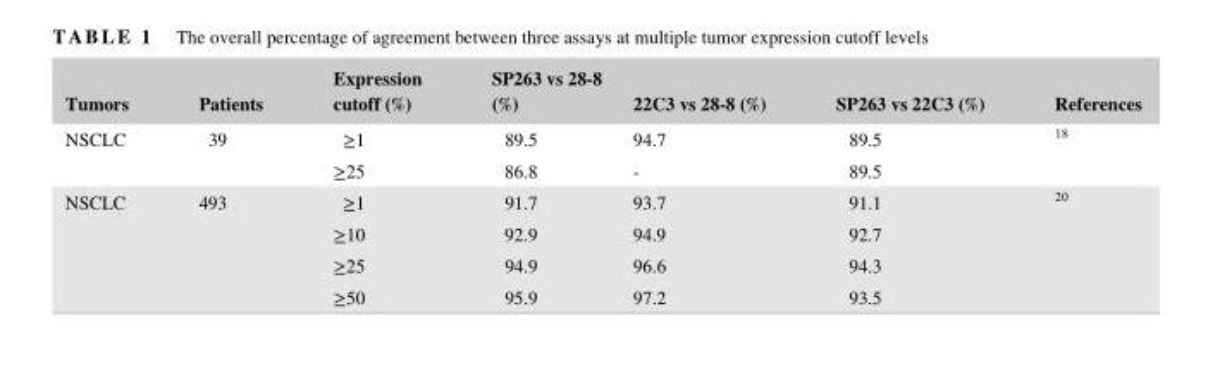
<table><thead><tr><td>Tumors</td><td>Patients</td><td>Expression cutoff (%)</td><td>SP263 vs 28- 8 (%)</td><td>22C3 vs 28- 8 (%)</td><td>SP263 vs 22C3 (%)</td><td>References</td></tr></thead><tbody><tr><td rowspan="2">NSCLC</td><td rowspan="2">39</td><td>≥1</td><td>89.5</td><td>94.7</td><td>89.5</td><td>18</td></tr><tr><td>≥25</td><td>86.8</td><td>-</td><td>89.5</td><td></td></tr><tr><td rowspan="4">NSCLC</td><td rowspan="4">493</td><td>≥1</td><td>91.7</td><td>93.7</td><td>91.1</td><td>20</td></tr><tr><td>≥10</td><td>92.9</td><td>94.9</td><td>92.7</td><td></td></tr><tr><td>≥25</td><td>94.9</td><td>96.6</td><td>94.3</td><td></td></tr><tr><td>≥50</td><td>95.9</td><td>97.2</td><td>93.5</td><td></td></tr></tbody></table>